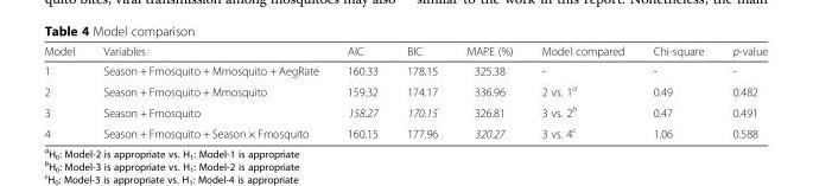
<table><thead><tr><td>Model</td><td>Variables</td><td>AIC</td><td>BIC</td><td>MAPE (%)</td><td>Model compared</td><td>Chi-square</td><td>p-value</td></tr></thead><tbody><tr><td>1</td><td>Season + Fmosquito + Mmosquito + AegRate</td><td>160.33</td><td>178.15</td><td>325.38</td><td>-</td><td>-</td><td>-</td></tr><tr><td>2</td><td>Season + Fmosquito + Mmosquito</td><td>159.32</td><td>174.17</td><td>336.96</td><td>2 vs. 1<sup>a</sup></td><td>0.49</td><td>0.482</td></tr><tr><td>3</td><td>Season + Fmosquito</td><td>158.27</td><td>170.15</td><td>326.81</td><td>3 vs. 2<sup>b</sup></td><td>0.47</td><td>0.491</td></tr><tr><td>4</td><td>Season + Fmosquito + Season × Fmosquito</td><td>160.15</td><td>177.96</td><td>320.27</td><td>3 vs. 4<sup>c</sup></td><td>1.06</td><td>0.588</td></tr></tbody></table>